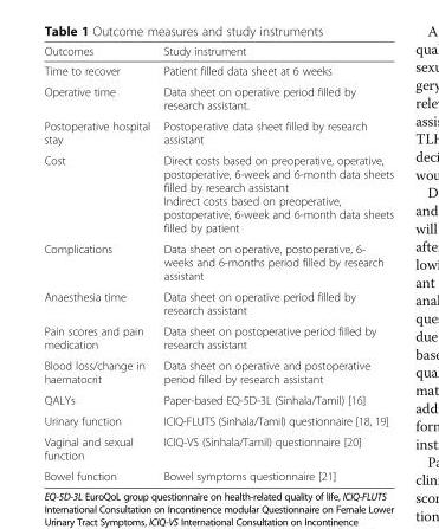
<table><thead><tr><td>Outcomes</td><td>Study instrument</td></tr></thead><tbody><tr><td>Time to recover</td><td>Patient filled data sheet at 6 weeks</td></tr><tr><td>Operative time</td><td>Data sheet on operative period filled by research assistant.</td></tr><tr><td>Postoperative hospital stay</td><td>Postoperative data sheet filled by research assistant</td></tr><tr><td>Cost</td><td>Direct costs based on preoperative, operative, postoperative, 6-week and 6-month data sheets filled by research assistant Indirect costs based on preoperative, postoperative, 6-week and 6-month data sheets filled by patient</td></tr><tr><td>Complications</td><td>Data sheet on operative, postoperative, 6- weeks and 6-months period filled by research assistant</td></tr><tr><td>Anaesthesia time</td><td>Data sheet on operative period filled by research assistant</td></tr><tr><td>Pain scores and pain medication</td><td>Data sheet on postoperative period filled by research assistant</td></tr><tr><td>Blood loss/change in haematocrit</td><td>Data sheet on operative and postoperative period filled by research assistant</td></tr><tr><td>QALYs</td><td>Paper-based EQ-5D-3L (Sinhala/Tamil) [16]</td></tr><tr><td>Urinary function</td><td>ICIQ-FLUTS (Sinhala/Tamil) questionnaire [18, 19]</td></tr><tr><td>Vaginal and sexual function</td><td>ICIQ-VS (Sinhala/Tamil) questionnaire [20]</td></tr><tr><td>Bowel function</td><td>Bowel symptoms questionnaire [21]</td></tr></tbody></table>